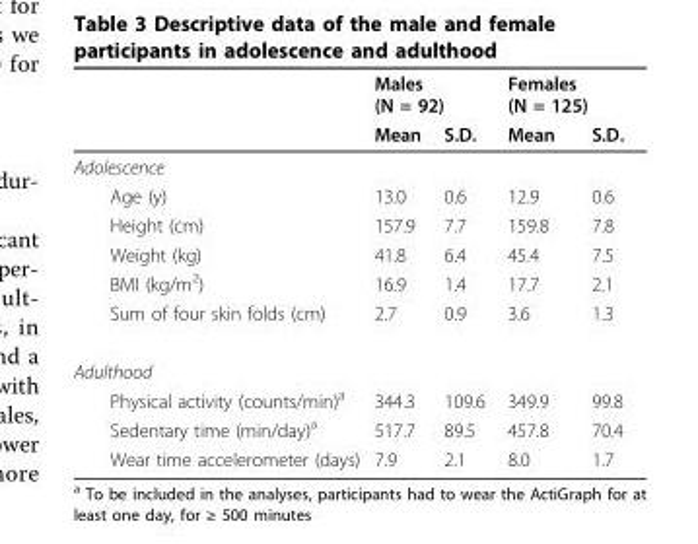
<table><thead><tr><td rowspan="2"></td><td colspan="2">Males (N = 92)</td><td colspan="2">Females (N = 125)</td></tr><tr><td>Mean</td><td>S.D.</td><td>Mean</td><td>S.D.</td></tr></thead><tbody><tr><td colspan="5">Adolescence</td></tr><tr><td>Age (y)</td><td>13.0</td><td>0.6</td><td>12.9</td><td>0.6</td></tr><tr><td>Height (cm)</td><td>157.9</td><td>7.7</td><td>159.8</td><td>7.8</td></tr><tr><td>Weight (kg)</td><td>41.8</td><td>6.4</td><td>45.4</td><td>7.5</td></tr><tr><td>BMI (kg/m<sup>2</sup>)</td><td>16.9</td><td>1.4</td><td>17.7</td><td>2.1</td></tr><tr><td>Sum of four skin folds (cm)</td><td>2.7</td><td>0.9</td><td>3.6</td><td>1.3</td></tr><tr><td colspan="5">Adulthood</td></tr><tr><td>Physical activity (counts/min)<sup>a</sup></td><td>344.3</td><td>109.6</td><td>349.9</td><td>99.8</td></tr><tr><td>Sedentary time (min/day)<sup>a</sup></td><td>517.7</td><td>89.5</td><td>457.8</td><td>70.4</td></tr><tr><td>Wear time accelerometer (days)</td><td>7.9</td><td>2.1</td><td>8.0</td><td>1.7</td></tr></tbody></table>